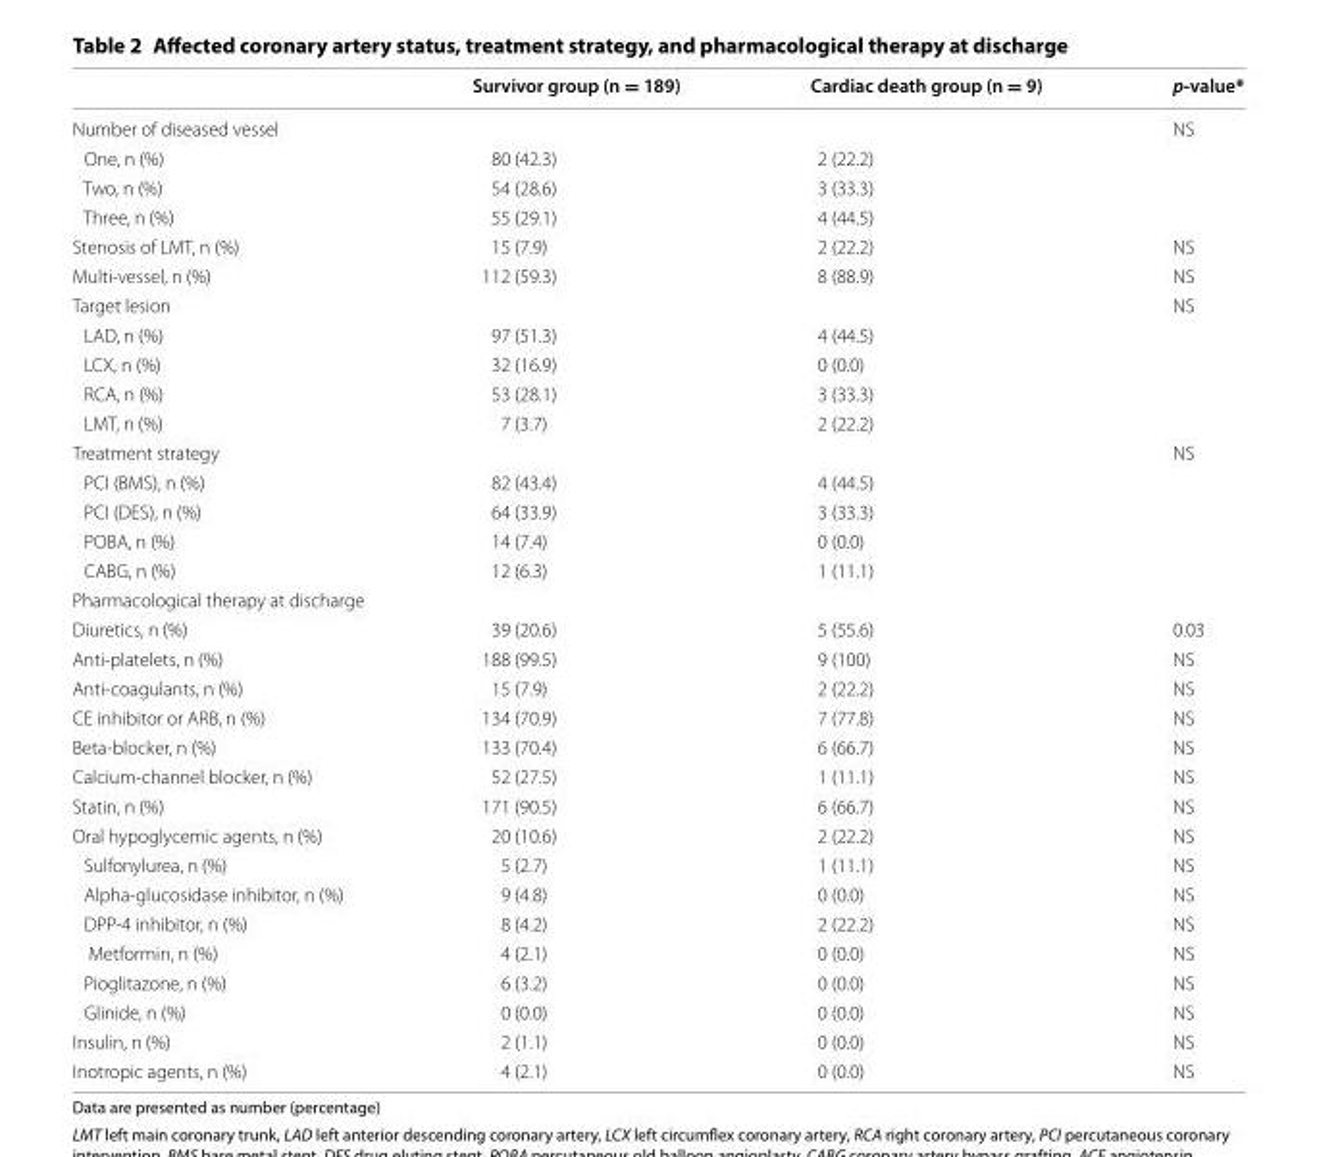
<table><thead><tr><td></td><td>Survivor group (n = 189)</td><td>Cardiac death group (n = 9)</td><td>p-value*</td></tr></thead><tbody><tr><td colspan="3">Number of diseased vessel</td><td>NS</td></tr><tr><td>One, n (%)</td><td>80 (42.3)</td><td>2 (22.2)</td><td></td></tr><tr><td>Two, n (%)</td><td>54 (28.6)</td><td>3 (33.3)</td><td></td></tr><tr><td>Three, n (%)</td><td>55 (29.1)</td><td>4 (44.5)</td><td></td></tr><tr><td>Stenosis of LMT, n (%)</td><td>15 (7.9)</td><td>2 (22.2)</td><td>NS</td></tr><tr><td>Multi-vessel, n (%)</td><td>112 (59.3)</td><td>8 (88.9)</td><td>NS</td></tr><tr><td colspan="3">Target lesion</td><td>NS</td></tr><tr><td>LAD, n (%)</td><td>97 (51.3)</td><td>4 (44.5)</td><td></td></tr><tr><td>LCX, n (%)</td><td>32 (16.9)</td><td>0 (0.0)</td><td></td></tr><tr><td>RCA, n (%)</td><td>53 (28.1)</td><td>3 (33.3)</td><td></td></tr><tr><td>LMT, n (%)</td><td>7 (3.7)</td><td>2 (22.2)</td><td></td></tr><tr><td colspan="3">Treatment strategy</td><td>NS</td></tr><tr><td>PCI (BMS), n (%)</td><td>82 (43.4)</td><td>4 (44.5)</td><td></td></tr><tr><td>PCI (DES), n (%)</td><td>64 (33.9)</td><td>3 (33.3)</td><td></td></tr><tr><td>POBA, n (%)</td><td>14 (7.4)</td><td>0 (0.0)</td><td></td></tr><tr><td>CABG, n (%)</td><td>12 (6.3)</td><td>1 (11.1)</td><td></td></tr><tr><td colspan="4">Pharmacological therapy at discharge</td></tr><tr><td>Diuretics, n (%)</td><td>39 (20.6)</td><td>5 (55.6)</td><td>0.03</td></tr><tr><td>Anti-platelets, n (%)</td><td>188 (99.5)</td><td>9 (100)</td><td>NS</td></tr><tr><td>Anti-coagulants, n (%)</td><td>15 (7.9)</td><td>2 (22.2)</td><td>NS</td></tr><tr><td>CE inhibitor or ARB, n (%)</td><td>134 (70.9)</td><td>7 (77.8)</td><td>NS</td></tr><tr><td>Beta-blocker, n (%)</td><td>133 (70.4)</td><td>6 (66.7)</td><td>NS</td></tr><tr><td>Calcium-channel blocker, n (%)</td><td>52 (27.5)</td><td>1 (11.1)</td><td>NS</td></tr><tr><td>Statin, n (%)</td><td>171 (90.5)</td><td>6 (66.7)</td><td>NS</td></tr><tr><td>Oral hypoglycemic agents, n (%)</td><td>20 (10.6)</td><td>2 (22.2)</td><td>NS</td></tr><tr><td>Sulfonylurea, n (%)</td><td>5 (2.7)</td><td>1 (11.1)</td><td>NS</td></tr><tr><td>Alpha-glucosidase inhibitor, n (%)</td><td>9 (4.8)</td><td>0 (0.0)</td><td>NS</td></tr><tr><td>DPP-4 inhibitor, n (%)</td><td>8 (4.2)</td><td>2 (22.2)</td><td>NS</td></tr><tr><td>Metformin, n (%)</td><td>4 (2.1)</td><td>0 (0.0)</td><td>NS</td></tr><tr><td>Pioglitazone, n (%)</td><td>6 (3.2)</td><td>0 (0.0)</td><td>NS</td></tr><tr><td>Glinide, n (%)</td><td>0 (0.0)</td><td>0 (0.0)</td><td>NS</td></tr><tr><td>Insulin, n (%)</td><td>2 (1.1)</td><td>0 (0.0)</td><td>NS</td></tr><tr><td>Inotropic agents, n (%)</td><td>4 (2.1)</td><td>0 (0.0)</td><td>NS</td></tr></tbody></table>